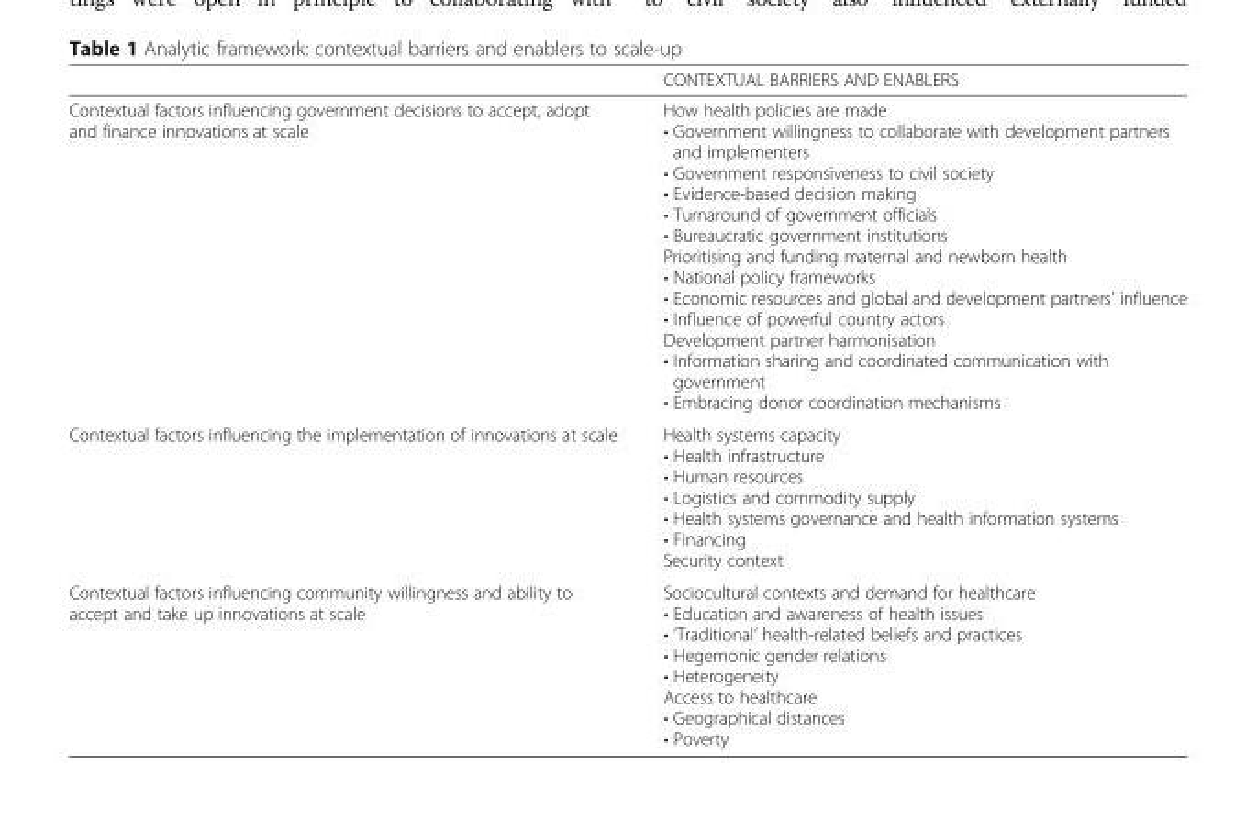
<table><thead><tr><td></td><td>CONTEXTUAL BARRIERS AND ENABLERS</td></tr></thead><tbody><tr><td>Contextual factors influencing government decisions to accept, adopt and finance innovations at scale</td><td>How health policies are made • Government willingness to collaborate with development partners and implementers • Government responsiveness to civil society • Evidence-based decision making • Turnaround of government officials • Bureaucratic government institutions Prioritising and funding maternal and newborn health • National policy frameworks • Economic resources and global and development partners’ influence • Influence of powerful country actors Development partner harmonisation • Information sharing and coordinated communication with government • Embracing donor coordination mechanisms</td></tr><tr><td>Contextual factors influencing the implementation of innovations at scale</td><td>Health systems capacity • Health infrastructure • Human resources • Logistics and commodity supply • Health systems governance and health information systems • Financing Security context</td></tr><tr><td>Contextual factors influencing community willingness and ability to accept and take up innovations at scale</td><td>Sociocultural contexts and demand for healthcare • Education and awareness of health issues • ‘Traditional’ health-related beliefs and practices • Hegemonic gender relations • Heterogeneity Access to healthcare • Geographical distances • Poverty</td></tr></tbody></table>